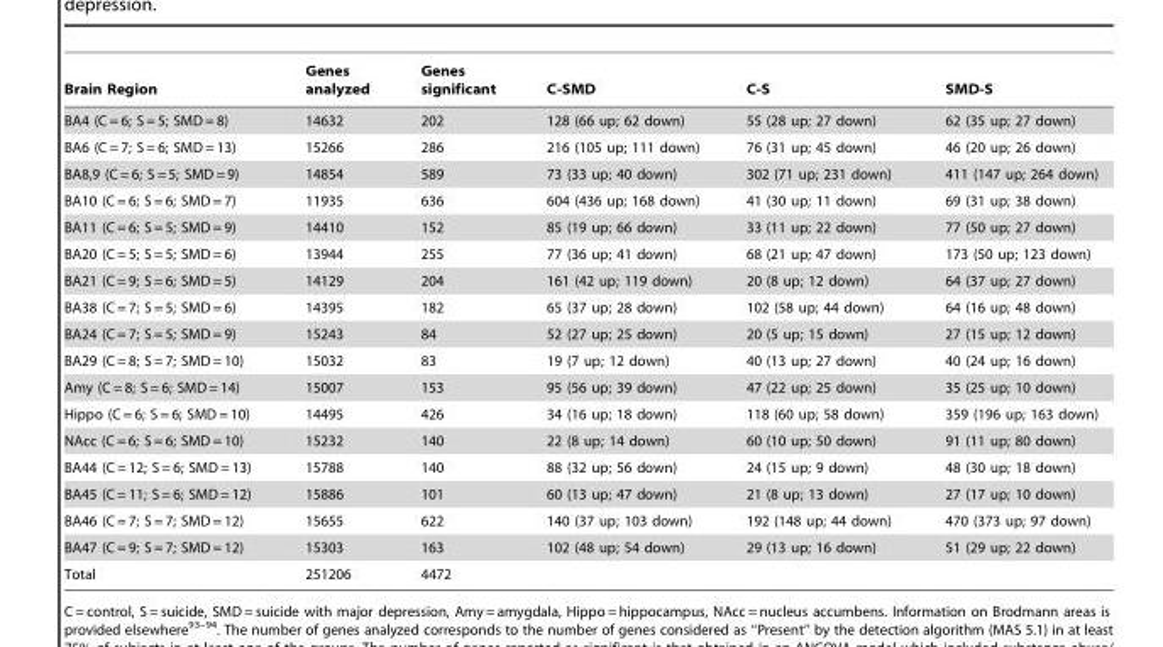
<table><thead><tr><td>Brain Region</td><td>Genes analyzed</td><td>Genes significant</td><td>C-SMD</td><td>C-S</td><td>SMD-S</td></tr></thead><tbody><tr><td>BA4 (C = 6; S = 5; SMD = 8)</td><td>14632</td><td>202</td><td>128 (66 up; 62 down)</td><td>55 (28 up; 27 down)</td><td>62 (35 up; 27 down)</td></tr><tr><td>BA6 (C = 7; S = 6; SMD = 13)</td><td>15266</td><td>286</td><td>216 (105 up; 111 down)</td><td>76 (31 up; 45 down)</td><td>46 (20 up; 26 down)</td></tr><tr><td>BA8,9 (C = 6; S = 5; SMD = 9)</td><td>14854</td><td>589</td><td>73 (33 up; 40 down)</td><td>302 (71 up; 231 down)</td><td>411 (147 up; 264 down)</td></tr><tr><td>BA10 (C = 6; S = 6; SMD = 7)</td><td>11935</td><td>636</td><td>604 (436 up; 168 down)</td><td>41 (30 up; 11 down)</td><td>69 (31 up; 38 down)</td></tr><tr><td>BA11 (C = 6; S = 5; SMD = 9)</td><td>14410</td><td>152</td><td>85 (19 up; 66 down)</td><td>33 (11 up; 22 down)</td><td>77 (50 up; 27 down)</td></tr><tr><td>BA20 (C = 5; S = 5; SMD = 6)</td><td>13944</td><td>255</td><td>77 (36 up; 41 down)</td><td>68 (21 up; 47 down)</td><td>173 (50 up; 123 down)</td></tr><tr><td>BA21 (C = 9; S = 6; SMD = 5)</td><td>14129</td><td>204</td><td>161 (42 up; 119 down)</td><td>20 (8 up; 12 down)</td><td>64 (37 up; 27 down)</td></tr><tr><td>BA38 (C = 7; S = 5; SMD = 6)</td><td>14395</td><td>182</td><td>65 (37 up; 28 down)</td><td>102 (58 up; 44 down)</td><td>64 (16 up; 48 down)</td></tr><tr><td>BA24 (C = 7; S = 5; SMD = 9)</td><td>15243</td><td>84</td><td>52 (27 up; 25 down)</td><td>20 (5 up; 15 down)</td><td>27 (15 up; 12 down)</td></tr><tr><td>BA29 (C = 8; S = 7; SMD = 10)</td><td>15032</td><td>83</td><td>19 (7 up; 12 down)</td><td>40 (13 up; 27 down)</td><td>40 (24 up; 16 down)</td></tr><tr><td>Amy (C = 8; S = 6; SMD = 14)</td><td>15007</td><td>153</td><td>95 (56 up; 39 down)</td><td>47 (22 up; 25 down)</td><td>35 (25 up; 10 down)</td></tr><tr><td>Hippo (C = 6; S = 6; SMD = 10)</td><td>14495</td><td>426</td><td>34 (16 up; 18 down)</td><td>118 (60 up; 58 down)</td><td>359 (196 up; 163 down)</td></tr><tr><td>NAcc (C = 6; S = 6; SMD = 10)</td><td>15232</td><td>140</td><td>22 (8 up; 14 down)</td><td>60 (10 up; 50 down)</td><td>91 (11 up; 80 down)</td></tr><tr><td>BA44 (C = 12; S = 6; SMD = 13)</td><td>15788</td><td>140</td><td>88 (32 up; 56 down)</td><td>24 (15 up; 9 down)</td><td>48 (30 up; 18 down)</td></tr><tr><td>BA45 (C = 11; S = 6; SMD = 12)</td><td>15886</td><td>101</td><td>60 (13 up; 47 down)</td><td>21 (8 up; 13 down)</td><td>27 (17 up; 10 down)</td></tr><tr><td>BA46 (C = 7; S = 7; SMD = 12)</td><td>15655</td><td>622</td><td>140 (37 up; 103 down)</td><td>192 (148 up; 44 down)</td><td>470 (373 up; 97 down)</td></tr><tr><td>BA47 (C = 9; S = 7; SMD = 12)</td><td>15303</td><td>163</td><td>102 (48 up; 54 down)</td><td>29 (13 up; 16 down)</td><td>51 (29 up; 22 down)</td></tr><tr><td>Total</td><td>251206</td><td>4472</td><td></td><td></td><td></td></tr></tbody></table>